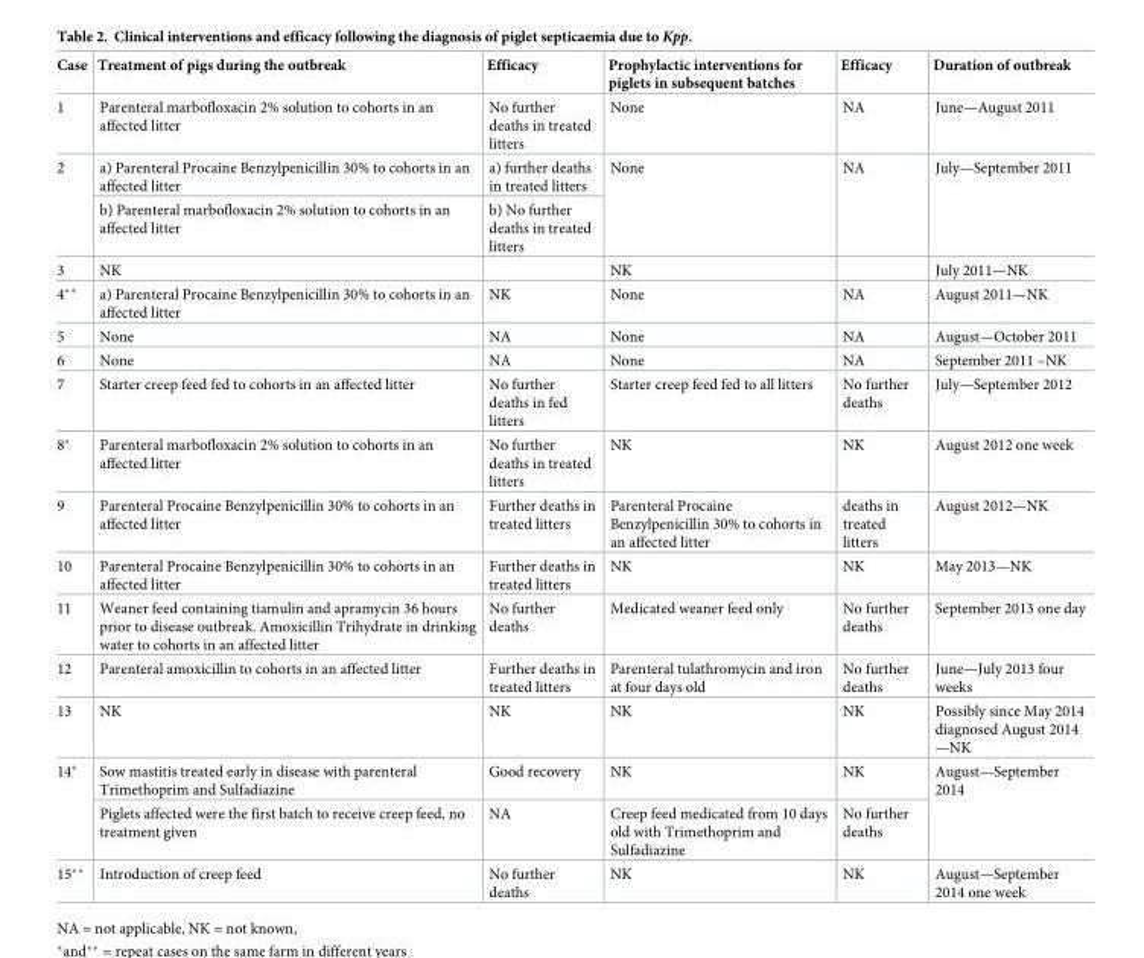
<table><thead><tr><td>Case</td><td>Treatment of pigs during the outbreak</td><td>Efficacy</td><td>Prophylactic interventions for piglets in subsequent batches</td><td>Efficacy</td><td>Duration of outbreak</td></tr></thead><tbody><tr><td>1</td><td>Parenteral marbofloxacin 2% solution to cohorts in an affected litter</td><td>No further deaths in treated litters</td><td>None</td><td>NA</td><td>June—August 2011</td></tr><tr><td rowspan="2">2</td><td>a) Parenteral Procaine Benzylpenicillin 30% to cohorts in an affected litter</td><td>a) further deaths in treated litters</td><td rowspan="2">None</td><td rowspan="2">NA</td><td rowspan="2">July—September 2011</td></tr><tr><td>b) Parenteral marbofloxacin 2% solution to cohorts in an affected litter</td><td>b) No further deaths in treated litters</td></tr><tr><td>3</td><td>NK</td><td></td><td>NK</td><td></td><td>July 2011—NK</td></tr><tr><td>4**</td><td>a) Parenteral Procaine Benzylpenicillin 30% to cohorts in an affected litter</td><td>NK</td><td>None</td><td>NA</td><td>August 2011—NK</td></tr><tr><td>5</td><td>None</td><td>NA</td><td>None</td><td>NA</td><td>August—October 2011</td></tr><tr><td>6</td><td>None</td><td>NA</td><td>None</td><td>NA</td><td>September 2011 –NK</td></tr><tr><td>7</td><td>Starter creep feed fed to cohorts in an affected litter</td><td>No further deaths in fed litters</td><td>Starter creep feed fed to all litters</td><td>No further deaths</td><td>July—September 2012</td></tr><tr><td>8*</td><td>Parenteral marbofloxacin 2% solution to cohorts in an affected litter</td><td>No further deaths in treated litters</td><td>NK</td><td>NK</td><td>August 2012 one week</td></tr><tr><td>9</td><td>Parenteral Procaine Benzylpenicillin 30% to cohorts in an affected litter</td><td>Further deaths in treated litters</td><td>Parenteral Procaine Benzylpenicillin 30% to cohorts in an affected litter</td><td>deaths in treated litters</td><td>August 2012—NK</td></tr><tr><td>10</td><td>Parenteral Procaine Benzylpenicillin 30% to cohorts in an affected litter</td><td>Further deaths in treated litters</td><td>NK</td><td>NK</td><td>May 2013—NK</td></tr><tr><td>11</td><td>Weaner feed containing tiamulin and apramycin 36 hours prior to disease outbreak. Amoxicillin Trihydrate in drinking water to cohorts in an affected litter</td><td>No further deaths</td><td>Medicated weaner feed only</td><td>No further deaths</td><td>September 2013 one day</td></tr><tr><td>12</td><td>Parenteral amoxicillin to cohorts in an affected litter</td><td>Further deaths in treated litters</td><td>Parenteral tulathromycin and iron at four days old</td><td>No further deaths</td><td>June—July 2013 four weeks</td></tr><tr><td>13</td><td>NK</td><td>NK</td><td>NK</td><td>NK</td><td>Possibly since May 2014 diagnosed August 2014 —NK</td></tr><tr><td rowspan="2">14*</td><td>Sow mastitis treated early in disease with parenteral Trimethoprim and Sulfadiazine</td><td>Good recovery</td><td>NK</td><td>NK</td><td rowspan="2">August—September 2014</td></tr><tr><td>Piglets affected were the first batch to receive creep feed, no treatment given</td><td>NA</td><td>Creep feed medicated from 10 days old with Trimethoprim and Sulfadiazine</td><td>No further deaths</td></tr><tr><td>15**</td><td>Introduction of creep feed</td><td>No further deaths</td><td>NK</td><td>NK</td><td>August—September 2014 one week</td></tr></tbody></table>